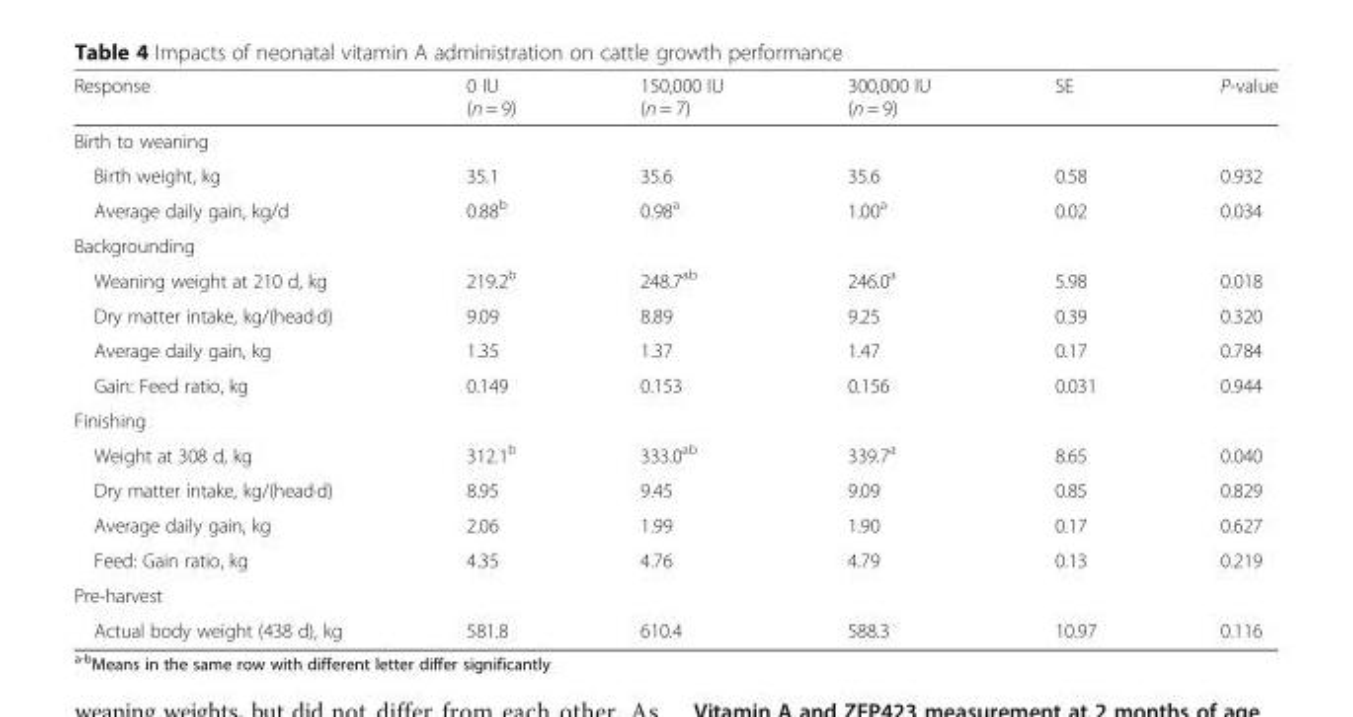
<table><thead><tr><td>Response</td><td>0 IU (n = 9)</td><td>150,000 IU (n = 7)</td><td>300,000 IU (n = 9)</td><td>SE</td><td>P-value</td></tr></thead><tbody><tr><td colspan="6">Birth to weaning</td></tr><tr><td>Birth weight, kg</td><td>35.1</td><td>35.6</td><td>35.6</td><td>0.58</td><td>0.932</td></tr><tr><td>Average daily gain, kg/d</td><td>0.88<sup>b</sup></td><td>0.98<sup>a</sup></td><td>1.00<sup>a</sup></td><td>0.02</td><td>0.034</td></tr><tr><td colspan="6">Backgrounding</td></tr><tr><td>Weaning weight at 210 d, kg</td><td>219.2<sup>b</sup></td><td>248.7<sup>ab</sup></td><td>246.0<sup>a</sup></td><td>5.98</td><td>0.018</td></tr><tr><td>Dry matter intake, kg/(head·d)</td><td>9.09</td><td>8.89</td><td>9.25</td><td>0.39</td><td>0.320</td></tr><tr><td>Average daily gain, kg</td><td>1.35</td><td>1.37</td><td>1.47</td><td>0.17</td><td>0.784</td></tr><tr><td>Gain: Feed ratio, kg</td><td>0.149</td><td>0.153</td><td>0.156</td><td>0.031</td><td>0.944</td></tr><tr><td colspan="6">Finishing</td></tr><tr><td>Weight at 308 d, kg</td><td>312.1<sup>b</sup></td><td>333.0<sup>ab</sup></td><td>339.7<sup>a</sup></td><td>8.65</td><td>0.040</td></tr><tr><td>Dry matter intake, kg/(head·d)</td><td>8.95</td><td>9.45</td><td>9.09</td><td>0.85</td><td>0.829</td></tr><tr><td>Average daily gain, kg</td><td>2.06</td><td>1.99</td><td>1.90</td><td>0.17</td><td>0.627</td></tr><tr><td>Feed: Gain ratio, kg</td><td>4.35</td><td>4.76</td><td>4.79</td><td>0.13</td><td>0.219</td></tr><tr><td colspan="6">Pre-harvest</td></tr><tr><td>Actual body weight (438 d), kg</td><td>581.8</td><td>610.4</td><td>588.3</td><td>10.97</td><td>0.116</td></tr></tbody></table>